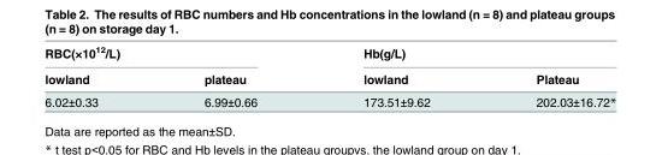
<table><thead><tr><td colspan="2">RBC(×10<sup>12</sup>/L)</td><td colspan="2">Hb(g/L)</td></tr><tr><td>lowland</td><td>plateau</td><td>lowland</td><td>Plateau</td></tr></thead><tbody><tr><td>6.02±0.33</td><td>6.99±0.66</td><td>173.51±9.62</td><td>202.03±16.72*</td></tr></tbody></table>